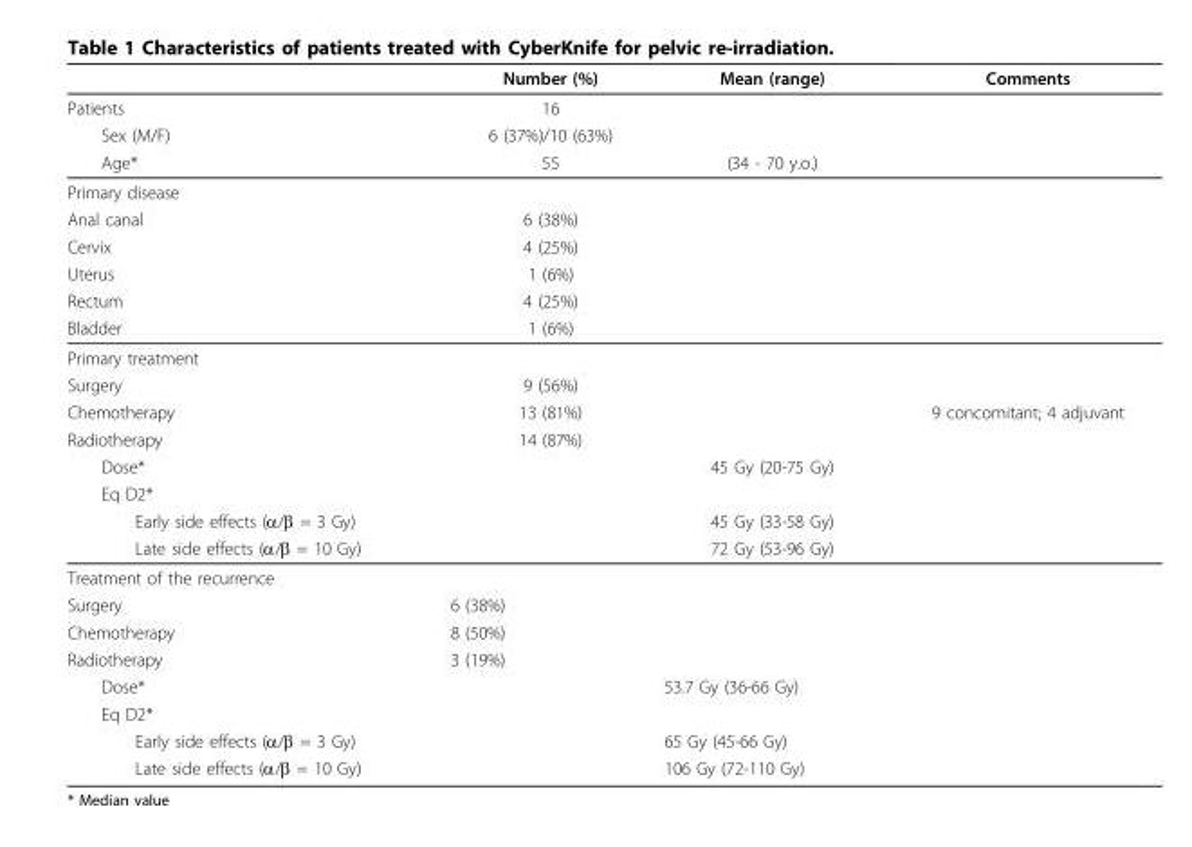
<table><thead><tr><td></td><td>Number (%)</td><td>Mean (range)</td><td>Comments</td></tr></thead><tbody><tr><td>Patients</td><td>16</td><td></td><td></td></tr><tr><td>Sex (M/F)</td><td>6 (37%)/10 (63%)</td><td></td><td></td></tr><tr><td>Age*</td><td>55</td><td>(34 - 70 y.o.)</td><td></td></tr><tr><td colspan="4">Primary disease</td></tr><tr><td>Anal canal</td><td>6 (38%)</td><td></td><td></td></tr><tr><td>Cervix</td><td>4 (25%)</td><td></td><td></td></tr><tr><td>Uterus</td><td>1 (6%)</td><td></td><td></td></tr><tr><td>Rectum</td><td>4 (25%)</td><td></td><td></td></tr><tr><td>Bladder</td><td>1 (6%)</td><td></td><td></td></tr><tr><td colspan="4">Primary treatment</td></tr><tr><td>Surgery</td><td>9 (56%)</td><td></td><td></td></tr><tr><td>Chemotherapy</td><td>13 (81%)</td><td></td><td>9 concomitant; 4 adjuvant</td></tr><tr><td>Radiotherapy</td><td>14 (87%)</td><td></td><td></td></tr><tr><td>Dose*</td><td></td><td>45 Gy (20-75 Gy)</td><td></td></tr><tr><td colspan="4">Eq D2*</td></tr><tr><td>Early side effects (α/β = 3 Gy)</td><td></td><td>45 Gy (33-58 Gy)</td><td></td></tr><tr><td>Late side effects (α/β = 10 Gy)</td><td></td><td>72 Gy (53-96 Gy)</td><td></td></tr><tr><td colspan="4">Treatment of the recurrence</td></tr><tr><td>Surgery</td><td>6 (38%)</td><td></td><td></td></tr><tr><td>Chemotherapy</td><td>8 (50%)</td><td></td><td></td></tr><tr><td>Radiotherapy</td><td>3 (19%)</td><td></td><td></td></tr><tr><td>Dose*</td><td></td><td>53.7 Gy (36-66 Gy)</td><td></td></tr><tr><td colspan="4">Eq D2*</td></tr><tr><td>Early side effects (α/β = 3 Gy)</td><td></td><td>65 Gy (45-66 Gy)</td><td></td></tr><tr><td>Late side effects (α/β = 10 Gy)</td><td></td><td>106 Gy (72-110 Gy)</td><td></td></tr></tbody></table>